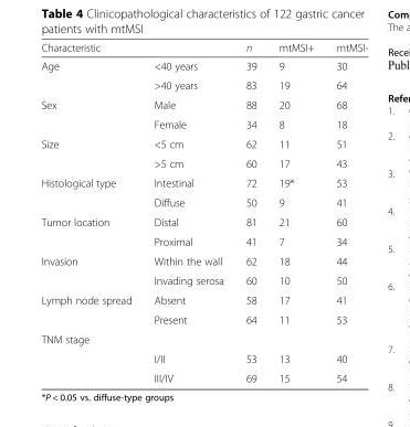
<table><thead><tr><td>Characteristic</td><td></td><td>n</td><td>mtMSI+</td><td>mtMSI-</td></tr></thead><tbody><tr><td rowspan="2">Age</td><td>&lt;40 years</td><td>39</td><td>9</td><td>30</td></tr><tr><td>&gt;40 years</td><td>83</td><td>19</td><td>64</td></tr><tr><td rowspan="2">Sex</td><td>Male</td><td>88</td><td>20</td><td>68</td></tr><tr><td>Female</td><td>34</td><td>8</td><td>18</td></tr><tr><td rowspan="2">Size</td><td>&lt;5 cm</td><td>62</td><td>11</td><td>51</td></tr><tr><td>&gt;5 cm</td><td>60</td><td>17</td><td>43</td></tr><tr><td rowspan="2">Histological type</td><td>Intestinal</td><td>72</td><td>19*</td><td>53</td></tr><tr><td>Diffuse</td><td>50</td><td>9</td><td>41</td></tr><tr><td rowspan="2">Tumor location</td><td>Distal</td><td>81</td><td>21</td><td>60</td></tr><tr><td>Proximal</td><td>41</td><td>7</td><td>34</td></tr><tr><td rowspan="2">Invasion</td><td>Within the wall</td><td>62</td><td>18</td><td>44</td></tr><tr><td>Invading serosa</td><td>60</td><td>10</td><td>50</td></tr><tr><td rowspan="2">Lymph node spread</td><td>Absent</td><td>58</td><td>17</td><td>41</td></tr><tr><td>Present</td><td>64</td><td>11</td><td>53</td></tr><tr><td colspan="5">TNM stage</td></tr><tr><td></td><td>I/II</td><td>53</td><td>13</td><td>40</td></tr><tr><td></td><td>III/IV</td><td>69</td><td>15</td><td>54</td></tr></tbody></table>